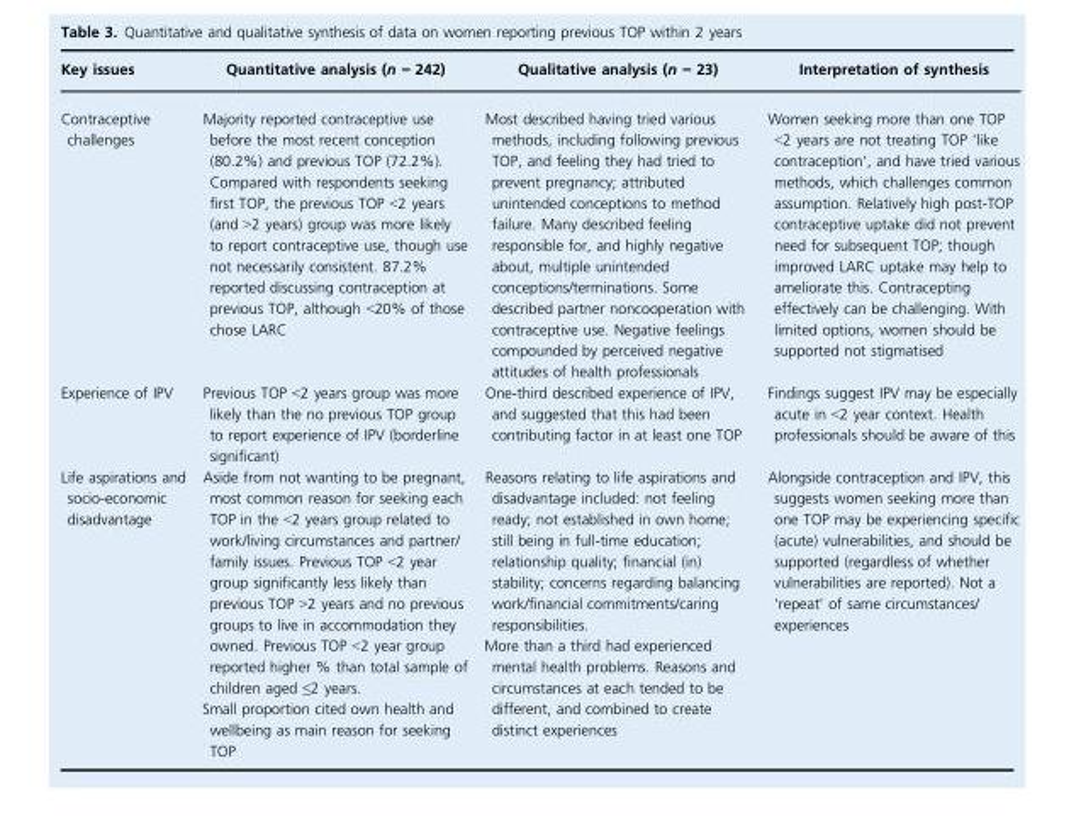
<table><thead><tr><td>Key issues</td><td>Quantitative analysis (n = 242)</td><td>Qualitative analysis (n = 23)</td><td>Interpretation of synthesis</td></tr></thead><tbody><tr><td>Contraceptive challenges</td><td>Majority reported contraceptive use before the most recent conception (80.2%) and previous TOP (72.2%). Compared with respondents seeking first TOP, the previous TOP &lt;2 years (and &gt;2 years) group was more likely to report contraceptive use, though use not necessarily consistent. 87.2% reported discussing contraception at previous TOP, although &lt;20% of those chose LARC</td><td>Most described having tried various methods, including following previous TOP, and feeling they had tried to prevent pregnancy; attributed unintended conceptions to method failure. Many described feeling responsible for, and highly negative about, multiple unintended conceptions/terminations. Some described partner noncooperation with contraceptive use. Negative feelings compounded by perceived negative attitudes of health professionals</td><td>Women seeking more than one TOP &lt;2 years are not treating TOP ‘like contraception’, and have tried various methods, which challenges common assumption. Relatively high post-TOP contraceptive uptake did not prevent need for subsequent TOP; though improved LARC uptake may help to ameliorate this. Contracepting effectively can be challenging. With limited options, women should be supported not stigmatised</td></tr><tr><td>Experience of IPV</td><td>Previous TOP &lt;2 years group was more likely than the no previous TOP group to report experience of IPV (borderline significant)</td><td>One-third described experience of IPV, and suggested that this had been contributing factor in at least one TOP</td><td>Findings suggest IPV may be especially acute in &lt;2 year context. Health professionals should be aware of this</td></tr><tr><td>Life aspirations and socio-economic disadvantage</td><td>Aside from not wanting to be pregnant, most common reason for seeking each TOP in the &lt;2 years group related to work/living circumstances and partner/ family issues. Previous TOP &lt;2 year group significantly less likely than previous TOP &gt;2 years and no previous groups to live in accommodation they owned. Previous TOP &lt;2 year group reported higher % than total sample of children aged ≤2 years. Small proportion cited own health and wellbeing as main reason for seeking TOP</td><td>Reasons relating to life aspirations and disadvantage included: not feeling ready; not established in own home; still being in full-time education; relationship quality; financial (in) stability; concerns regarding balancing work/financial commitments/caring responsibilities. More than a third had experienced mental health problems. Reasons and circumstances at each tended to be different, and combined to create distinct experiences</td><td>Alongside contraception and IPV, this suggests women seeking more than one TOP may be experiencing specific (acute) vulnerabilities, and should be supported (regardless of whether vulnerabilities are reported). Not a ‘repeat’ of same circumstances/ experiences</td></tr></tbody></table>